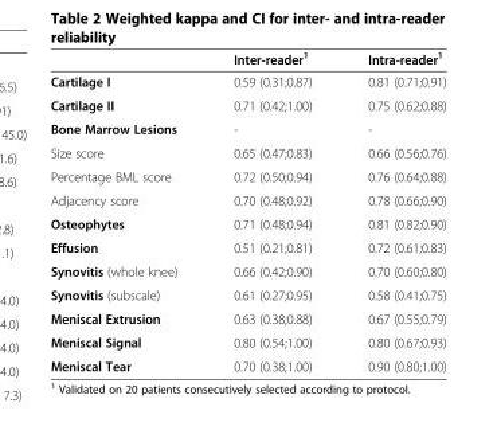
<table><thead><tr><td></td><td>Inter-reader<sup>1</sup></td><td>Intra-reader<sup>1</sup></td></tr></thead><tbody><tr><td>Cartilage I</td><td>0.59 (0.31;0.87)</td><td>0.81 (0.71;0.91)</td></tr><tr><td>Cartilage II</td><td>0.71 (0.42;1.00)</td><td>0.75 (0.62;0.88)</td></tr><tr><td>Bone Marrow Lesions</td><td>-</td><td>-</td></tr><tr><td>Size score</td><td>0.65 (0.47;0.83)</td><td>0.66 (0.56;0.76)</td></tr><tr><td>Percentage BML score</td><td>0.72 (0.50;0.94)</td><td>0.76 (0.64;0.88)</td></tr><tr><td>Adjacency score</td><td>0.70 (0.48;0.92)</td><td>0.78 (0.66;0.90)</td></tr><tr><td>Osteophytes</td><td>0.71 (0.48;0.94)</td><td>0.81 (0.82;0.90)</td></tr><tr><td>Effusion</td><td>0.51 (0.21;0.81)</td><td>0.72 (0.61;0.83)</td></tr><tr><td>Synovitis (whole knee)</td><td>0.66 (0.42;0.90)</td><td>0.70 (0.60;0.80)</td></tr><tr><td>Synovitis (subscale)</td><td>0.61 (0.27;0.95)</td><td>0.58 (0.41;0.75)</td></tr><tr><td>Meniscal Extrusion</td><td>0.63 (0.38;0.88)</td><td>0.67 (0.55;0.79)</td></tr><tr><td>Meniscal Signal</td><td>0.80 (0.54;1.00)</td><td>0.80 (0.67;0.93)</td></tr><tr><td>Meniscal Tear</td><td>0.70 (0.38;1.00)</td><td>0.90 (0.80;1.00)</td></tr></tbody></table>